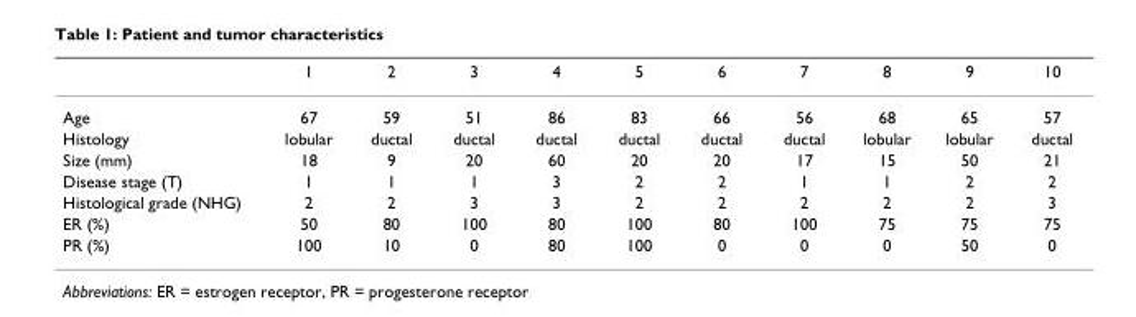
<table><thead><tr><td></td><td>1</td><td>2</td><td>3</td><td>4</td><td>5</td><td>6</td><td>7</td><td>8</td><td>9</td><td>10</td></tr></thead><tbody><tr><td>Age</td><td>67</td><td>59</td><td>51</td><td>86</td><td>83</td><td>66</td><td>56</td><td>68</td><td>65</td><td>57</td></tr><tr><td>Histology</td><td>lobular</td><td>ductal</td><td>ductal</td><td>ductal</td><td>ductal</td><td>ductal</td><td>ductal</td><td>lobular</td><td>lobular</td><td>ductal</td></tr><tr><td>Size (mm)</td><td>18</td><td>9</td><td>20</td><td>60</td><td>20</td><td>20</td><td>17</td><td>15</td><td>50</td><td>21</td></tr><tr><td>Disease stage (T)</td><td>1</td><td>1</td><td>1</td><td>3</td><td>2</td><td>2</td><td>1</td><td>1</td><td>2</td><td>2</td></tr><tr><td>Histological grade (NHG)</td><td>2</td><td>2</td><td>3</td><td>3</td><td>2</td><td>2</td><td>2</td><td>2</td><td>2</td><td>3</td></tr><tr><td>ER (%)</td><td>50</td><td>80</td><td>100</td><td>80</td><td>100</td><td>80</td><td>100</td><td>75</td><td>75</td><td>75</td></tr><tr><td>PR (%)</td><td>100</td><td>10</td><td>0</td><td>80</td><td>100</td><td>0</td><td>0</td><td>0</td><td>50</td><td>0</td></tr></tbody></table>